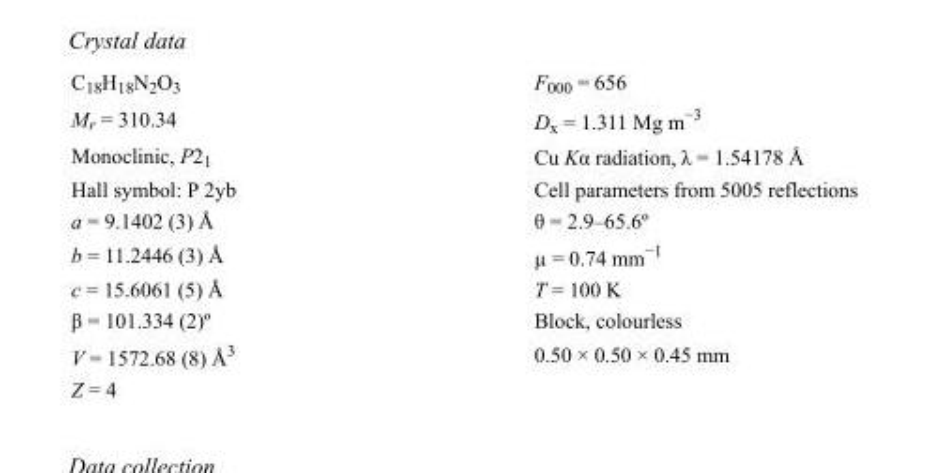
<table><tbody><tr><td>C<sub>18</sub>H<sub>18</sub>N<sub>2</sub>O<sub>3</sub></td><td>F000 = 656</td></tr><tr><td>M<sub>r</sub> = 310.34</td><td>D<sub>x</sub> = 1.311 Mg m<sup>−3</sup></td></tr><tr><td>Monoclinic, P2<sub>1</sub></td><td>Cu Kα radiation, λ = 1.54178 Å</td></tr><tr><td>Hall symbol: P 2yb</td><td>Cell parameters from 5005 reflections</td></tr><tr><td>a = 9.1402 (3) Å</td><td>θ = 2.9–65.6º</td></tr><tr><td>b = 11.2446 (3) Å</td><td>µ = 0.74 mm<sup>−1</sup></td></tr><tr><td>c = 15.6061 (5) Å</td><td>T = 100 K</td></tr><tr><td>β = 101.334 (2)º</td><td>Block, colourless</td></tr><tr><td>V = 1572.68 (8) Å<sup>3</sup></td><td>0.50 × 0.50 × 0.45 mm</td></tr><tr><td>Z = 4</td><td></td></tr></tbody></table>